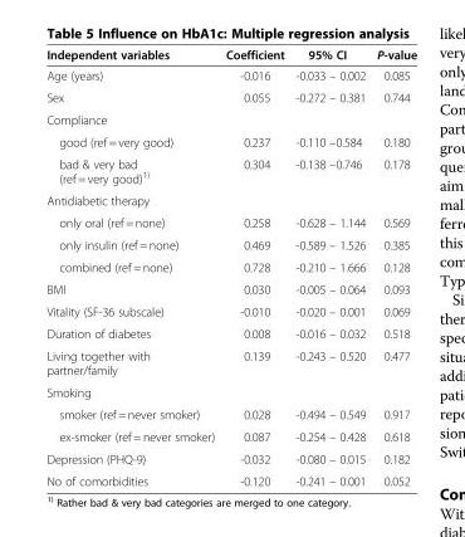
<table><thead><tr><td>Independent variables</td><td>Coefficient</td><td>95% CI</td><td>P-value</td></tr></thead><tbody><tr><td>Age (years)</td><td>-0.016</td><td>-0.033 – 0.002</td><td>0.085</td></tr><tr><td>Sex</td><td>0.055</td><td>-0.272 – 0.381</td><td>0.744</td></tr><tr><td colspan="4">Compliance</td></tr><tr><td>good (ref = very good)</td><td>0.237</td><td>-0.110 –0.584</td><td>0.180</td></tr><tr><td>bad &amp; very bad (ref = very good)<sup>1)</sup></td><td>0.304</td><td>-0.138 –0.746</td><td>0.178</td></tr><tr><td colspan="4">Antidiabetic therapy</td></tr><tr><td>only oral (ref = none)</td><td>0.258</td><td>-0.628 – 1.144</td><td>0.569</td></tr><tr><td>only insulin (ref = none)</td><td>0.469</td><td>-0.589 – 1.526</td><td>0.385</td></tr><tr><td>combined (ref = none)</td><td>0.728</td><td>-0.210 – 1.666</td><td>0.128</td></tr><tr><td>BMI</td><td>0.030</td><td>-0.005 – 0.064</td><td>0.093</td></tr><tr><td>Vitality (SF-36 subscale)</td><td>-0.010</td><td>-0.020 – 0.001</td><td>0.069</td></tr><tr><td>Duration of diabetes</td><td>0.008</td><td>-0.016 – 0.032</td><td>0.518</td></tr><tr><td>Living together with partner/family</td><td>0.139</td><td>-0.243 – 0.520</td><td>0.477</td></tr><tr><td colspan="4">Smoking</td></tr><tr><td>smoker (ref = never smoker)</td><td>0.028</td><td>-0.494 – 0.549</td><td>0.917</td></tr><tr><td>ex-smoker (ref = never smoker)</td><td>0.087</td><td>-0.254 – 0.428</td><td>0.618</td></tr><tr><td>Depression (PHQ-9)</td><td>-0.032</td><td>-0.080 – 0.015</td><td>0.182</td></tr><tr><td>No of comorbidities</td><td>-0.120</td><td>-0.241 – 0.001</td><td>0.052</td></tr></tbody></table>